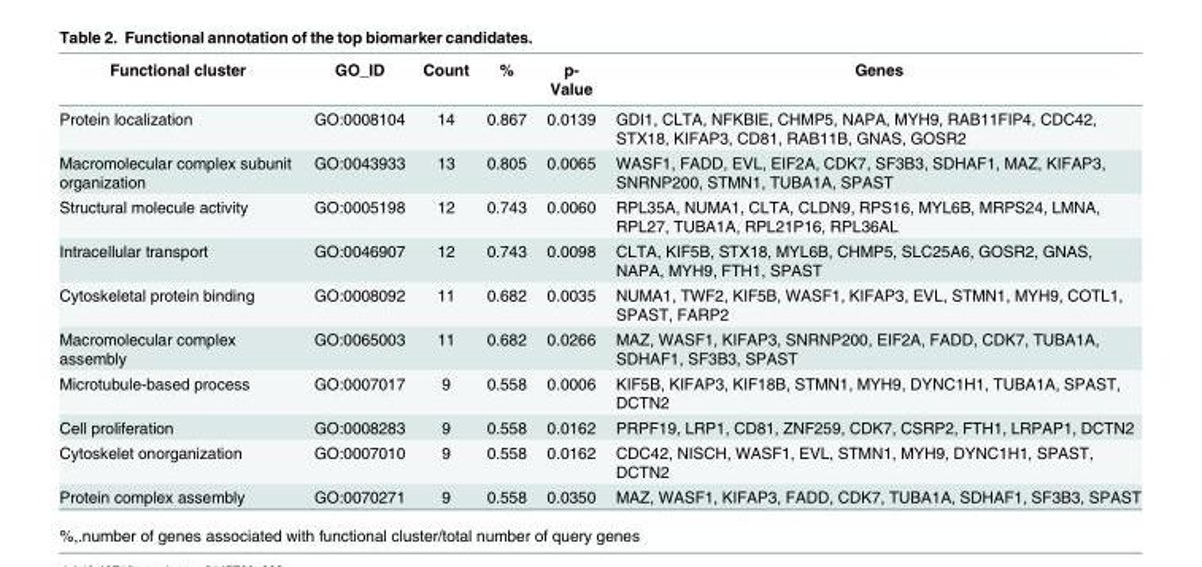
<table><thead><tr><td>Functional cluster</td><td>GO_ID</td><td>Count</td><td>%</td><td>p- Value</td><td>Genes</td></tr></thead><tbody><tr><td>Protein localization</td><td>GO:0008104</td><td>14</td><td>0.867</td><td>0.0139</td><td>GDI1, CLTA, NFKBIE, CHMP5, NAPA, MYH9, RAB11FIP4, CDC42, STX18, KIFAP3, CD81, RAB11B, GNAS, GOSR2</td></tr><tr><td>Macromolecular complex subunit organization</td><td>GO:0043933</td><td>13</td><td>0.805</td><td>0.0065</td><td>WASF1, FADD, EVL, EIF2A, CDK7, SF3B3, SDHAF1, MAZ, KIFAP3, SNRNP200, STMN1, TUBA1A, SPAST</td></tr><tr><td>Structural molecule activity</td><td>GO:0005198</td><td>12</td><td>0.743</td><td>0.0060</td><td>RPL35A, NUMA1, CLTA, CLDN9, RPS16, MYL6B, MRPS24, LMNA, RPL27, TUBA1A, RPL21P16, RPL36AL</td></tr><tr><td>Intracellular transport</td><td>GO:0046907</td><td>12</td><td>0.743</td><td>0.0098</td><td>CLTA, KIF5B, STX18, MYL6B, CHMP5, SLC25A6, GOSR2, GNAS, NAPA, MYH9, FTH1, SPAST</td></tr><tr><td>Cytoskeletal protein binding</td><td>GO:0008092</td><td>11</td><td>0.682</td><td>0.0035</td><td>NUMA1, TWF2, KIF5B, WASF1, KIFAP3, EVL, STMN1, MYH9, COTL1, SPAST, FARP2</td></tr><tr><td>Macromolecular complex assembly</td><td>GO:0065003</td><td>11</td><td>0.682</td><td>0.0266</td><td>MAZ, WASF1, KIFAP3, SNRNP200, EIF2A, FADD, CDK7, TUBA1A, SDHAF1, SF3B3, SPAST</td></tr><tr><td>Microtubule-based process</td><td>GO:0007017</td><td>9</td><td>0.558</td><td>0.0006</td><td>KIF5B, KIFAP3, KIF18B, STMN1, MYH9, DYNC1H1, TUBA1A, SPAST, DCTN2</td></tr><tr><td>Cell proliferation</td><td>GO:0008283</td><td>9</td><td>0.558</td><td>0.0162</td><td>PRPF19, LRP1, CD81, ZNF259, CDK7, CSRP2, FTH1, LRPAP1, DCTN2</td></tr><tr><td>Cytoskelet onorganization</td><td>GO:0007010</td><td>9</td><td>0.558</td><td>0.0162</td><td>CDC42, NISCH, WASF1, EVL, STMN1, MYH9, DYNC1H1, SPAST, DCTN2</td></tr><tr><td>Protein complex assembly</td><td>GO:0070271</td><td>9</td><td>0.558</td><td>0.0350</td><td>MAZ, WASF1, KIFAP3, FADD, CDK7, TUBA1A, SDHAF1, SF3B3, SPAST</td></tr></tbody></table>